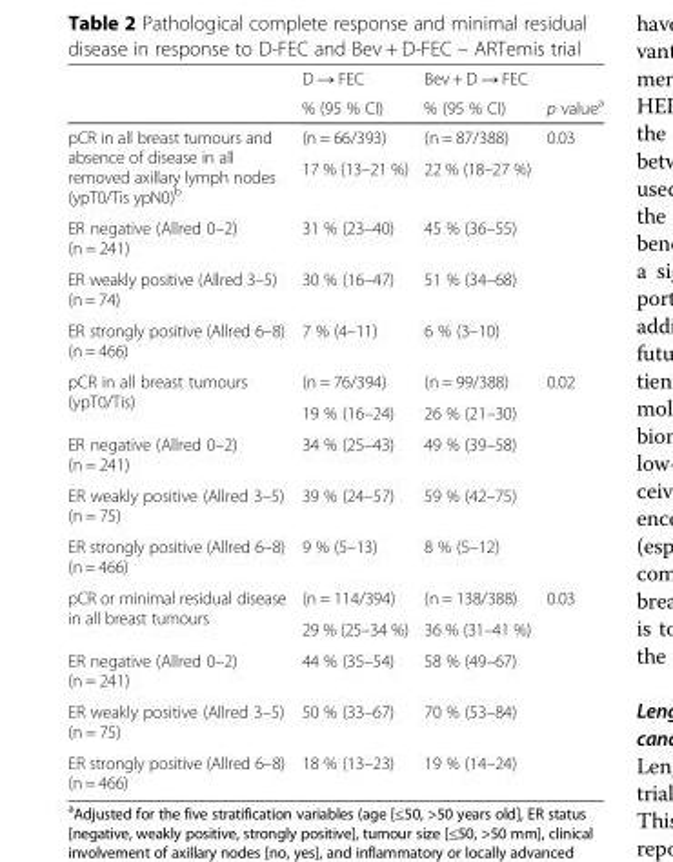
<table><thead><tr><td rowspan="2"></td><td rowspan="2">D → FEC % (95 % CI)</td><td rowspan="2">Bev + D → FEC % (95 % CI)</td><td rowspan="2">p value<sup>a</sup></td></tr><tr></tr></thead><tbody><tr><td rowspan="2">pCR in all breast tumours and absence of disease in all removed axillary lymph nodes (ypT0/Tis ypN0)<sup>b</sup></td><td>(n = 66/393)</td><td>(n = 87/388)</td><td rowspan="2">0.03</td></tr><tr><td>17 % (13–21 %)</td><td>22 % (18–27 %)</td></tr><tr><td>ER negative (Allred 0–2) (n = 241)</td><td>31 % (23–40)</td><td>45 % (36–55)</td><td></td></tr><tr><td>ER weakly positive (Allred 3–5) (n = 74)</td><td>30 % (16–47)</td><td>51 % (34–68)</td><td></td></tr><tr><td>ER strongly positive (Allred 6–8) (n = 466)</td><td>7 % (4–11)</td><td>6 % (3–10)</td><td></td></tr><tr><td rowspan="2">pCR in all breast tumours (ypT0/Tis)</td><td>(n = 76/394)</td><td>(n = 99/388)</td><td rowspan="2">0.02</td></tr><tr><td>19 % (16–24)</td><td>26 % (21–30)</td></tr><tr><td>ER negative (Allred 0–2) (n = 241)</td><td>34 % (25–43)</td><td>49 % (39–58)</td><td></td></tr><tr><td>ER weakly positive (Allred 3–5) (n = 75)</td><td>39 % (24–57)</td><td>59 % (42–75)</td><td></td></tr><tr><td>ER strongly positive (Allred 6–8) (n = 466)</td><td>9 % (5–13)</td><td>8 % (5–12)</td><td></td></tr><tr><td rowspan="2">pCR or minimal residual disease in all breast tumours</td><td>(n = 114/394)</td><td>(n = 138/388)</td><td rowspan="2">0.03</td></tr><tr><td>29 % (25–34 %)</td><td>36 % (31–41 %)</td></tr><tr><td>ER negative (Allred 0–2) (n = 241)</td><td>44 % (35–54)</td><td>58 % (49–67)</td><td></td></tr><tr><td>ER weakly positive (Allred 3–5) (n = 75)</td><td>50 % (33–67)</td><td>70 % (53–84)</td><td></td></tr><tr><td>ER strongly positive (Allred 6–8) (n = 466)</td><td>18 % (13–23)</td><td>19 % (14–24)</td><td></td></tr></tbody></table>